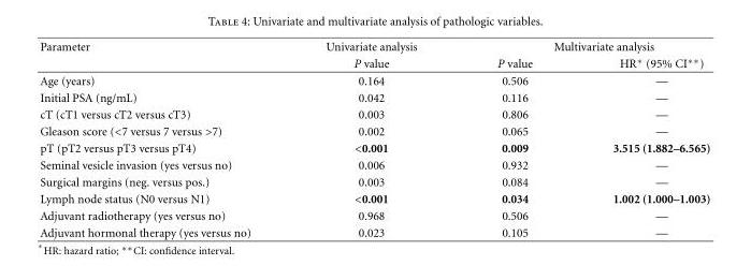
<table><thead><tr><td rowspan="2">Parameter</td><td rowspan="2">Univariate analysis P value</td><td colspan="2">Multivariate analysis</td></tr><tr><td>P value</td><td>HR∗ (95% CI∗∗)</td></tr></thead><tbody><tr><td>Age (years)</td><td>0.164</td><td>0.506</td><td>—</td></tr><tr><td>Initial PSA (ng/mL)</td><td>0.042</td><td>0.116</td><td>—</td></tr><tr><td>cT (cT1 versus cT2 versus cT3)</td><td>0.003</td><td>0.806</td><td>—</td></tr><tr><td>Gleason score (&lt;7 versus 7 versus &gt;7)</td><td>0.002</td><td>0.065</td><td>—</td></tr><tr><td>pT (pT2 versus pT3 versus pT4)</td><td>&lt;0.001</td><td>0.009</td><td>3.515 (1.882–6.565)</td></tr><tr><td>Seminal vesicle invasion (yes versus no)</td><td>0.006</td><td>0.932</td><td>—</td></tr><tr><td>Surgical margins (neg. versus pos.)</td><td>0.003</td><td>0.084</td><td>—</td></tr><tr><td>Lymph node status (N0 versus N1)</td><td>&lt;0.001</td><td>0.034</td><td>1.002 (1.000–1.003)</td></tr><tr><td>Adjuvant radiotherapy (yes versus no)</td><td>0.968</td><td>0.506</td><td>—</td></tr><tr><td>Adjuvant hormonal therapy (yes versus no)</td><td>0.023</td><td>0.105</td><td>—</td></tr></tbody></table>